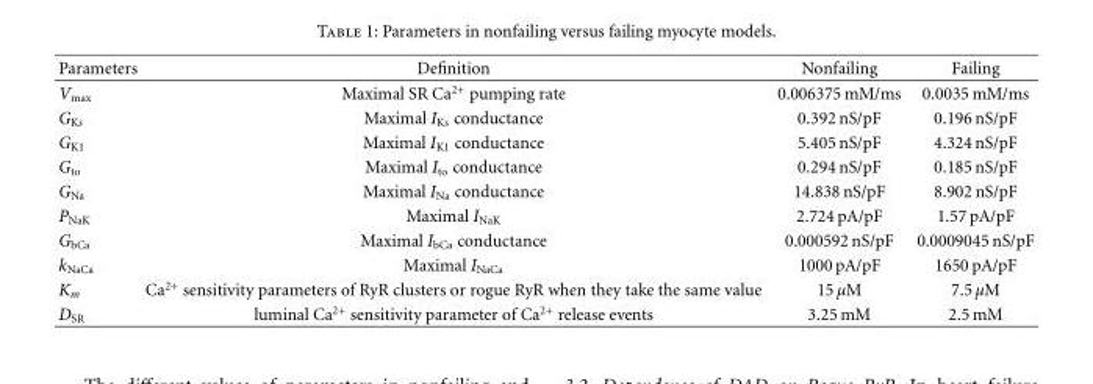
<table><thead><tr><td>Parameters</td><td>Definition</td><td>Nonfailing</td><td>Failing</td></tr></thead><tbody><tr><td>V<sub>max</sub></td><td>Maximal SR Ca<sup>2+</sup> pumping rate</td><td>0.006375 mM/ms</td><td>0.0035 mM/ms</td></tr><tr><td>G<sub>Ks</sub></td><td>Maximal I<sub>Ks</sub> conductance</td><td>0.392 nS/pF</td><td>0.196 nS/pF</td></tr><tr><td>G<sub>K1</sub></td><td>Maximal I<sub>K1</sub> conductance</td><td>5.405 nS/pF</td><td>4.324 nS/pF</td></tr><tr><td>G<sub>to</sub></td><td>Maximal I<sub>to</sub> conductance</td><td>0.294 nS/pF</td><td>0.185 nS/pF</td></tr><tr><td>G<sub>Na</sub></td><td>Maximal I<sub>Na</sub> conductance</td><td>14.838 nS/pF</td><td>8.902 nS/pF</td></tr><tr><td>P<sub>NaK</sub></td><td>Maximal I<sub>NaK</sub></td><td>2.724 pA/pF</td><td>1.57 pA/pF</td></tr><tr><td>G<sub>bCa</sub></td><td>Maximal I<sub>bCa</sub> conductance</td><td>0.000592 nS/pF</td><td>0.0009045 nS/pF</td></tr><tr><td>k<sub>NaCa</sub></td><td>Maximal I<sub>NaCa</sub></td><td>1000 pA/pF</td><td>1650 pA/pF</td></tr><tr><td>K<sub>m</sub></td><td>Ca<sup>2+</sup> sensitivity parameters of RyR clusters or rogue RyR when they take the same value</td><td>15 μM</td><td>7.5 μM</td></tr><tr><td>D<sub>SR</sub></td><td>luminal Ca<sup>2+</sup> sensitivity parameter of Ca<sup>2+</sup> release events</td><td>3.25 mM</td><td>2.5 mM</td></tr></tbody></table>